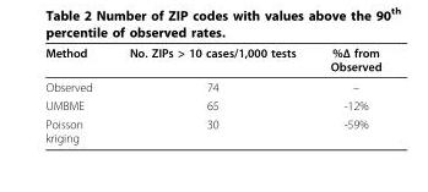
<table><thead><tr><td>Method</td><td>No. ZIPs &gt; 10 cases/1,000 tests</td><td>%Δ from Observed</td></tr></thead><tbody><tr><td>Observed</td><td>74</td><td>–</td></tr><tr><td>UMBME</td><td>65</td><td>-12%</td></tr><tr><td>Poisson kriging</td><td>30</td><td>-59%</td></tr></tbody></table>